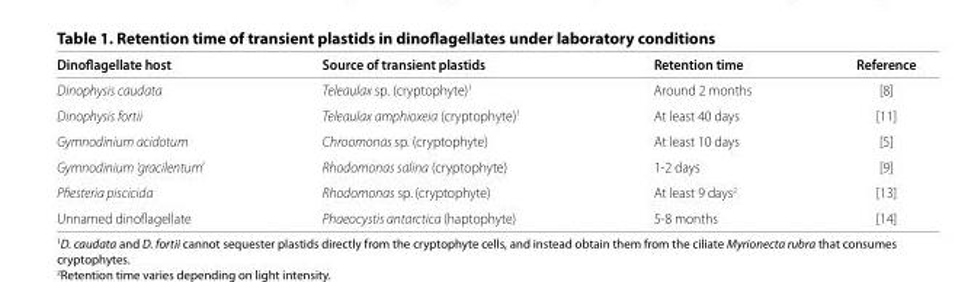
<table><tbody><tr><td>Dinoflagellate host</td><td>Source of transient plastids</td><td>Retention time</td><td>Reference</td></tr><tr><td>Dinophysis caudata</td><td>Teleaulax sp. (cryptophyte)<sup>1</sup></td><td>Around 2 months</td><td>[8]</td></tr><tr><td>Dinophysis fortii</td><td>Teleaulax amphioxeia (cryptophyte)<sup>1</sup></td><td>At least 40 days</td><td>[11]</td></tr><tr><td>Gymnodinium acidotum</td><td>Chroomonas sp. (cryptophyte)</td><td>At least 10 days</td><td>[5]</td></tr><tr><td>Gymnodinium ‘gracilentum’</td><td>Rhodomonas salina (cryptophyte)</td><td>1-2 days</td><td>[9]</td></tr><tr><td>Pfiesteria piscicida</td><td>Rhodomonas sp. (cryptophyte)</td><td>At least 9 days<sup>2</sup></td><td>[13]</td></tr><tr><td>Unnamed dinoflagellate</td><td>Phaeocystis antarctica (haptophyte)</td><td>5-8 months</td><td>[14]</td></tr></tbody></table>